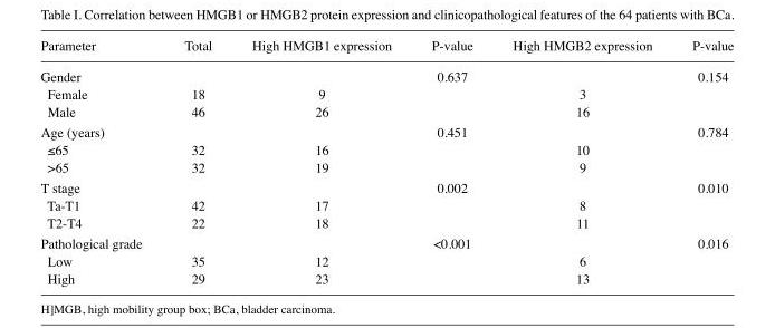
<table><thead><tr><td>Parameter</td><td>Total</td><td>High HMGB1 expression</td><td>P-value</td><td>High HMGB2 expression</td><td>P-value</td></tr></thead><tbody><tr><td>Gender</td><td></td><td></td><td>0.637</td><td></td><td>0.154</td></tr><tr><td>Female</td><td>18</td><td>9</td><td></td><td>3</td><td></td></tr><tr><td>Male</td><td>46</td><td>26</td><td></td><td>16</td><td></td></tr><tr><td>Age (years)</td><td></td><td></td><td>0.451</td><td></td><td>0.784</td></tr><tr><td>≤65</td><td>32</td><td>16</td><td></td><td>10</td><td></td></tr><tr><td>&gt;65</td><td>32</td><td>19</td><td></td><td>9</td><td></td></tr><tr><td>T stage</td><td></td><td></td><td>0.002</td><td></td><td>0.010</td></tr><tr><td>Ta-T1</td><td>42</td><td>17</td><td></td><td>8</td><td></td></tr><tr><td>T2-T4</td><td>22</td><td>18</td><td></td><td>11</td><td></td></tr><tr><td>Pathological grade</td><td></td><td></td><td>&lt;0.001</td><td></td><td>0.016</td></tr><tr><td>Low</td><td>35</td><td>12</td><td></td><td>6</td><td></td></tr><tr><td>High</td><td>29</td><td>23</td><td></td><td>13</td><td></td></tr></tbody></table>